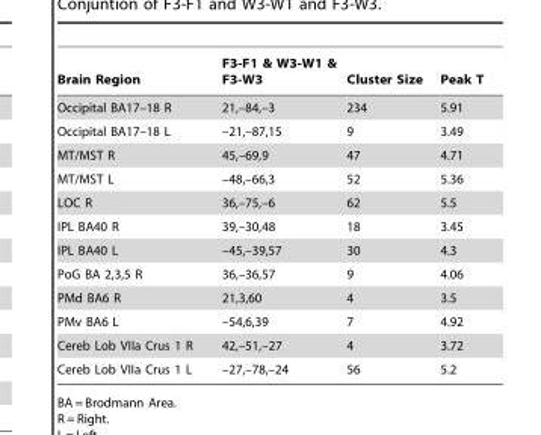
<table><thead><tr><td>Brain Region</td><td>F3-F1 &amp; W3-W1 &amp; F3-W3</td><td>Cluster Size</td><td>Peak T</td></tr></thead><tbody><tr><td>Occipital BA17–18 R</td><td>21,–84,–3</td><td>234</td><td>5.91</td></tr><tr><td>Occipital BA17–18 L</td><td>–21,–87,15</td><td>9</td><td>3.49</td></tr><tr><td>MT/MST R</td><td>45,–69,9</td><td>47</td><td>4.71</td></tr><tr><td>MT/MST L</td><td>–48,–66,3</td><td>52</td><td>5.36</td></tr><tr><td>LOC R</td><td>36,–75,–6</td><td>62</td><td>5.5</td></tr><tr><td>IPL BA40 R</td><td>39,–30,48</td><td>18</td><td>3.45</td></tr><tr><td>IPL BA40 L</td><td>–45,–39,57</td><td>30</td><td>4.3</td></tr><tr><td>PoG BA 2,3,5 R</td><td>36,–36,57</td><td>9</td><td>4.06</td></tr><tr><td>PMd BA6 R</td><td>21,3,60</td><td>4</td><td>3.5</td></tr><tr><td>PMv BA6 L</td><td>–54,6,39</td><td>7</td><td>4.92</td></tr><tr><td>Cereb Lob VIIa Crus 1 R</td><td>42,–51,–27</td><td>4</td><td>3.72</td></tr><tr><td>Cereb Lob VIIa Crus 1 L</td><td>–27,–78,–24</td><td>56</td><td>5.2</td></tr></tbody></table>